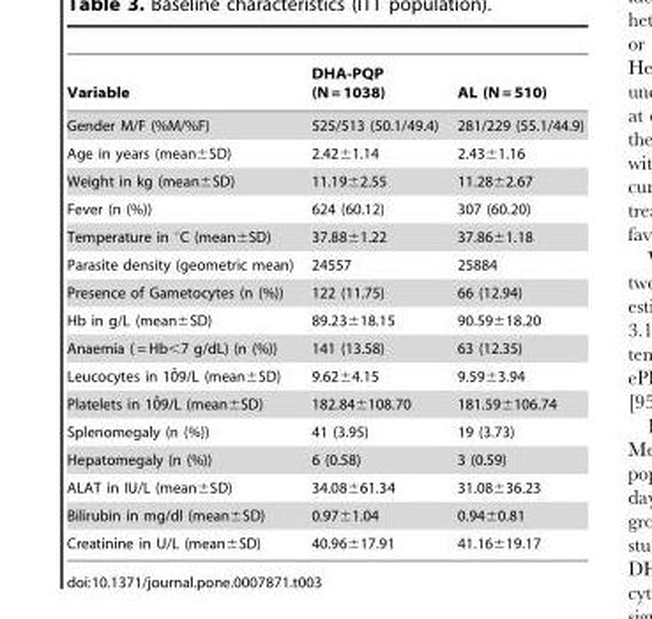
<table><thead><tr><td>Variable</td><td>DHA-PQP (N = 1038)</td><td>AL (N = 510)</td></tr></thead><tbody><tr><td>Gender M/F (%M/%F)</td><td>525/513 (50.1/49.4)</td><td>281/229 (55.1/44.9)</td></tr><tr><td>Age in years (mean±SD)</td><td>2.42±1.14</td><td>2.43±1.16</td></tr><tr><td>Weight in kg (mean±SD)</td><td>11.19±2.55</td><td>11.28±2.67</td></tr><tr><td>Fever (n (%))</td><td>624 (60.12)</td><td>307 (60.20)</td></tr><tr><td>Temperature in °C (mean±SD)</td><td>37.88±1.22</td><td>37.86±1.18</td></tr><tr><td>Parasite density (geometric mean)</td><td>24557</td><td>25884</td></tr><tr><td>Presence of Gametocytes (n (%))</td><td>122 (11.75)</td><td>66 (12.94)</td></tr><tr><td>Hb in g/L (mean±SD)</td><td>89.23±18.15</td><td>90.59±18.20</td></tr><tr><td>Anaemia ( = Hb&lt;7 g/dL) (n (%))</td><td>141 (13.58)</td><td>63 (12.35)</td></tr><tr><td>Leucocytes in 10ˆ9/L (mean6SD)</td><td>9.62±4.15</td><td>9.59±3.94</td></tr><tr><td>Platelets in 10ˆ9/L (mean6SD)</td><td>182.84±108.70</td><td>181.59±106.74</td></tr><tr><td>Splenomegaly (n (%))</td><td>41 (3.95)</td><td>19 (3.73)</td></tr><tr><td>Hepatomegaly (n (%))</td><td>6 (0.58)</td><td>3 (0.59)</td></tr><tr><td>ALAT in IU/L (mean±SD)</td><td>34.08±61.34</td><td>31.08±36.23</td></tr><tr><td>Bilirubin in mg/dl (mean±SD)</td><td>0.97±1.04</td><td>0.94±0.81</td></tr><tr><td>Creatinine in U/L (mean±SD)</td><td>40.96±17.91</td><td>41.16±19.17</td></tr></tbody></table>